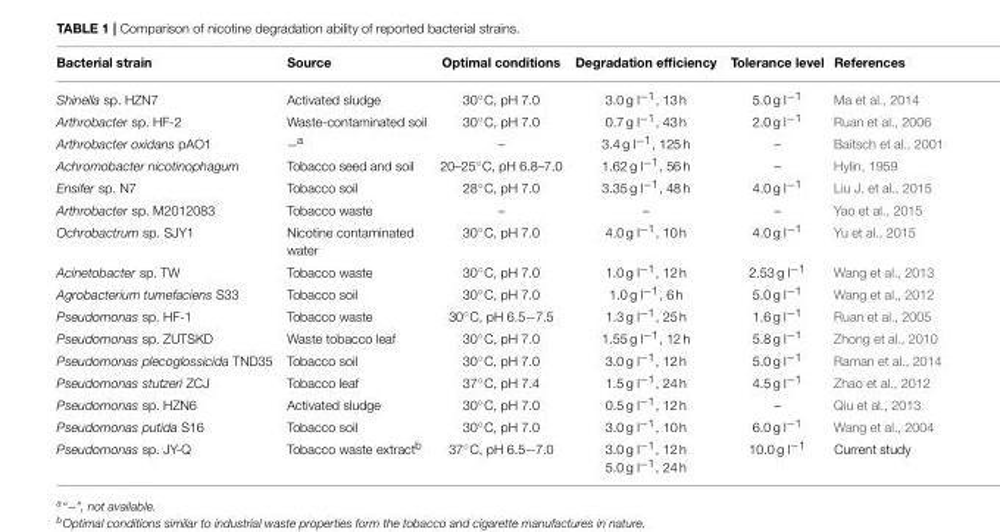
<table><thead><tr><td>Bacterial strain</td><td>Source</td><td>Optimal conditions</td><td>Degradation efficiency</td><td>Tolerance level</td><td>References</td></tr></thead><tbody><tr><td>Shinella sp. HZN7</td><td>Activated sludge</td><td>30◦C, pH 7.0</td><td>3.0 g l<sup>−1</sup>, 13 h</td><td>5.0 g l<sup>−1</sup></td><td>Ma et al., 2014</td></tr><tr><td>Arthrobacter sp. HF-2</td><td>Waste-contaminated soil</td><td>30◦C, pH 7.0</td><td>0.7 g l<sup>−1</sup>, 43 h</td><td>2.0 g l<sup>−1</sup></td><td>Ruan et al., 2006</td></tr><tr><td>Arthrobacter oxidans pAO1</td><td>−<sup>a</sup></td><td>–</td><td>3.4 g l<sup>−1</sup>, 125 h</td><td>–</td><td>Baitsch et al., 2001</td></tr><tr><td>Achromobacter nicotinophagum</td><td>Tobacco seed and soil</td><td>20–25◦C, pH 6.8–7.0</td><td>1.62 g l<sup>−1</sup>, 56 h</td><td>–</td><td>Hylin, 1959</td></tr><tr><td>Ensifer sp. N7</td><td>Tobacco soil</td><td>28◦C, pH 7.0</td><td>3.35 g l<sup>−1</sup>, 48 h</td><td>4.0 g l<sup>−1</sup></td><td>Liu J. et al., 2015</td></tr><tr><td>Arthrobacter sp. M2012083</td><td>Tobacco waste</td><td>–</td><td>–</td><td>–</td><td>Yao et al., 2015</td></tr><tr><td>Ochrobactrum sp. SJY1</td><td>Nicotine contaminated water</td><td>30◦C, pH 7.0</td><td>4.0 g l<sup>−1</sup>, 10 h</td><td>4.0 g l<sup>−1</sup></td><td>Yu et al., 2015</td></tr><tr><td>Acinetobacter sp. TW</td><td>Tobacco waste</td><td>30◦C, pH 7.0</td><td>1.0 g l<sup>−1</sup>, 12 h</td><td>2.53 g l<sup>−1</sup></td><td>Wang et al., 2013</td></tr><tr><td>Agrobacterium tumefaciens S33</td><td>Tobacco soil</td><td>30◦C, pH 7.0</td><td>1.0 g l<sup>−1</sup>, 6 h</td><td>5.0 g l<sup>−1</sup></td><td>Wang et al., 2012</td></tr><tr><td>Pseudomonas sp. HF-1</td><td>Tobacco waste</td><td>30◦C, pH 6.5−7.5</td><td>1.3 g l<sup>−1</sup>, 25 h</td><td>1.6 g l<sup>−1</sup></td><td>Ruan et al., 2005</td></tr><tr><td>Pseudomonas sp. ZUTSKD</td><td>Waste tobacco leaf</td><td>30◦C, pH 7.0</td><td>1.55 g l<sup>−1</sup>, 12 h</td><td>5.8 g l<sup>−1</sup></td><td>Zhong et al., 2010</td></tr><tr><td>Pseudomonas plecoglossicida TND35</td><td>Tobacco soil</td><td>30◦C, pH 7.0</td><td>3.0 g l<sup>−1</sup>, 12 h</td><td>5.0 g l<sup>−1</sup></td><td>Raman et al., 2014</td></tr><tr><td>Pseudomonas stutzeri ZCJ</td><td>Tobacco leaf</td><td>37◦C, pH 7.4</td><td>1.5 g l<sup>−1</sup>, 24 h</td><td>4.5 g l<sup>−1</sup></td><td>Zhao et al., 2012</td></tr><tr><td>Pseudomonas sp. HZN6</td><td>Activated sludge</td><td>30◦C, pH 7.0</td><td>0.5 g l<sup>−1</sup>, 12 h</td><td>–</td><td>Qiu et al., 2013</td></tr><tr><td>Pseudomonas putida S16</td><td>Tobacco soil</td><td>30◦C, pH 7.0</td><td>3.0 g l<sup>−1</sup>, 10 h</td><td>6.0 g l<sup>−1</sup></td><td>Wang et al., 2004</td></tr><tr><td>Pseudomonas sp. JY-Q</td><td>Tobacco waste extract<sup>b</sup></td><td>37◦C, pH 6.5−7.0</td><td>3.0 g l<sup>−1</sup>, 12 h 5.0 g l<sup>−1</sup>, 24 h</td><td>10.0 g l<sup>−1</sup></td><td>Current study</td></tr></tbody></table>